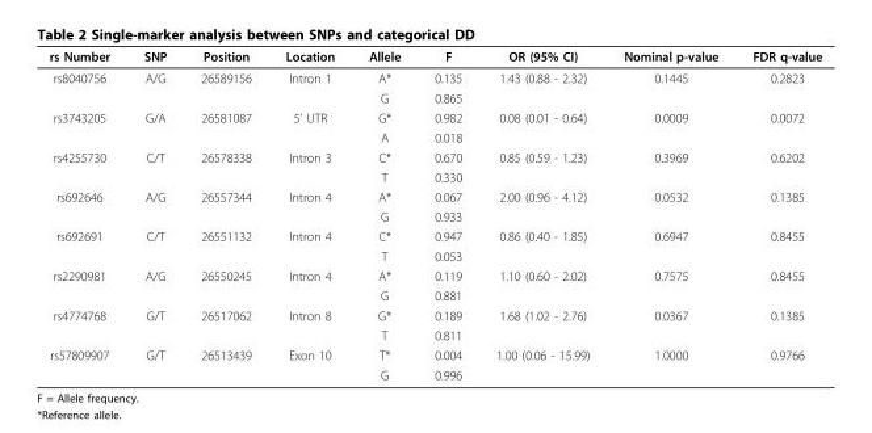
<table><thead><tr><td>rs Number</td><td>SNP</td><td>Position</td><td>Location</td><td>Allele</td><td>F</td><td>OR (95% CI)</td><td>Nominal p-value</td><td>FDR q-value</td></tr></thead><tbody><tr><td rowspan="2">rs8040756</td><td>A/G</td><td>26589156</td><td>Intron 1</td><td>A*</td><td>0.135</td><td>1.43 (0.88 - 2.32)</td><td>0.1445</td><td>0.2823</td></tr><tr><td></td><td></td><td></td><td>G</td><td>0.865</td><td></td><td></td><td></td></tr><tr><td rowspan="2">rs3743205</td><td>G/A</td><td>26581087</td><td>5’ UTR</td><td>G*</td><td>0.982</td><td>0.08 (0.01 - 0.64)</td><td>0.0009</td><td>0.0072</td></tr><tr><td></td><td></td><td></td><td>A</td><td>0.018</td><td></td><td></td><td></td></tr><tr><td rowspan="2">rs4255730</td><td>C/T</td><td>26578338</td><td>Intron 3</td><td>C*</td><td>0.670</td><td>0.85 (0.59 - 1.23)</td><td>0.3969</td><td>0.6202</td></tr><tr><td></td><td></td><td></td><td>T</td><td>0.330</td><td></td><td></td><td></td></tr><tr><td rowspan="2">rs692646</td><td>A/G</td><td>26557344</td><td>Intron 4</td><td>A*</td><td>0.067</td><td>2.00 (0.96 - 4.12)</td><td>0.0532</td><td>0.1385</td></tr><tr><td></td><td></td><td></td><td>G</td><td>0.933</td><td></td><td></td><td></td></tr><tr><td rowspan="2">rs692691</td><td>C/T</td><td>26551132</td><td>Intron 4</td><td>C*</td><td>0.947</td><td>0.86 (0.40 - 1.85)</td><td>0.6947</td><td>0.8455</td></tr><tr><td></td><td></td><td></td><td>T</td><td>0.053</td><td></td><td></td><td></td></tr><tr><td rowspan="2">rs2290981</td><td>A/G</td><td>26550245</td><td>Intron 4</td><td>A*</td><td>0.119</td><td>1.10 (0.60 - 2.02)</td><td>0.7575</td><td>0.8455</td></tr><tr><td></td><td></td><td></td><td>G</td><td>0.881</td><td></td><td></td><td></td></tr><tr><td rowspan="2">rs4774768</td><td>G/T</td><td>26517062</td><td>Intron 8</td><td>G*</td><td>0.189</td><td>1.68 (1.02 - 2.76)</td><td>0.0367</td><td>0.1385</td></tr><tr><td></td><td></td><td></td><td>T</td><td>0.811</td><td></td><td></td><td></td></tr><tr><td rowspan="2">rs57809907</td><td>G/T</td><td>26513439</td><td>Exon 10</td><td>T*</td><td>0.004</td><td>1.00 (0.06 - 15.99)</td><td>1.0000</td><td>0.9766</td></tr><tr><td></td><td></td><td></td><td>G</td><td>0.996</td><td></td><td></td><td></td></tr></tbody></table>